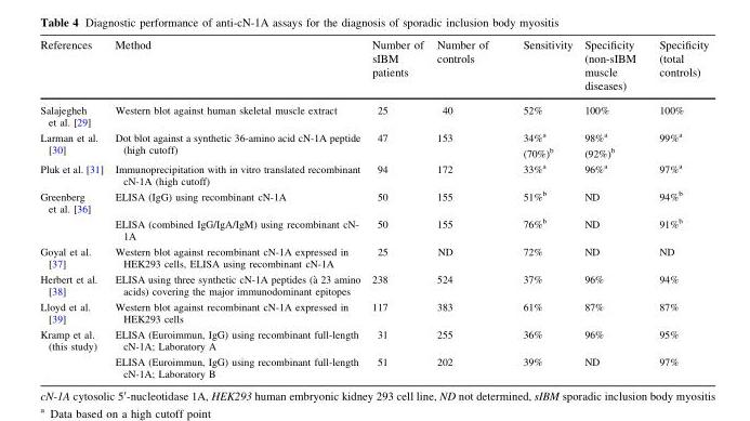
<table><thead><tr><td>References</td><td>Method</td><td>Number of sIBM patients</td><td>Number of controls</td><td>Sensitivity</td><td>Specificity (non-sIBM muscle diseases)</td><td>Specificity (total controls)</td></tr></thead><tbody><tr><td>Salajegheh et al. [29]</td><td>Western blot against human skeletal muscle extract</td><td>25</td><td>40</td><td>52%</td><td>100%</td><td>100%</td></tr><tr><td>Larman et al. [30]</td><td>Dot blot against a synthetic 36-amino acid cN-1A peptide (high cutoff)</td><td>47</td><td>153</td><td>34%<sup>a</sup> (70%)<sup>b</sup></td><td>98%<sup>a</sup> (92%)<sup>b</sup></td><td>99%<sup>a</sup></td></tr><tr><td>Pluk et al. [31]</td><td>Immunoprecipitation with in vitro translated recombinant cN-1A (high cutoff)</td><td>94</td><td>172</td><td>33%<sup>a</sup></td><td>96%<sup>a</sup></td><td>97%<sup>a</sup></td></tr><tr><td rowspan="2">Greenberg et al. [36]</td><td>ELISA (IgG) using recombinant cN-1A</td><td>50</td><td>155</td><td>51%<sup>b</sup></td><td>ND</td><td>94%<sup>b</sup></td></tr><tr><td>ELISA (combined IgG/IgA/IgM) using recombinant cN- 1A</td><td>50</td><td>155</td><td>76%<sup>b</sup></td><td>ND</td><td>91%<sup>b</sup></td></tr><tr><td>Goyal et al. [37]</td><td>Western blot against recombinant cN-1A expressed in HEK293 cells, ELISA using recombinant cN-1A</td><td>25</td><td>ND</td><td>72%</td><td>ND</td><td>ND</td></tr><tr><td>Herbert et al. [38]</td><td>ELISA using three synthetic cN-1A peptides (a` 23 amino acids) covering the major immunodominant epitopes</td><td>238</td><td>524</td><td>37%</td><td>96%</td><td>94%</td></tr><tr><td>Lloyd et al. [39]</td><td>Western blot against recombinant cN-1A expressed in HEK293 cells</td><td>117</td><td>383</td><td>61%</td><td>87%</td><td>87%</td></tr><tr><td rowspan="2">Kramp et al. (this study)</td><td>ELISA (Euroimmun, IgG) using recombinant full-length cN-1A; Laboratory A</td><td>31</td><td>255</td><td>36%</td><td>96%</td><td>95%</td></tr><tr><td>ELISA (Euroimmun, IgG) using recombinant full-length cN-1A; Laboratory B</td><td>51</td><td>202</td><td>39%</td><td>ND</td><td>97%</td></tr></tbody></table>